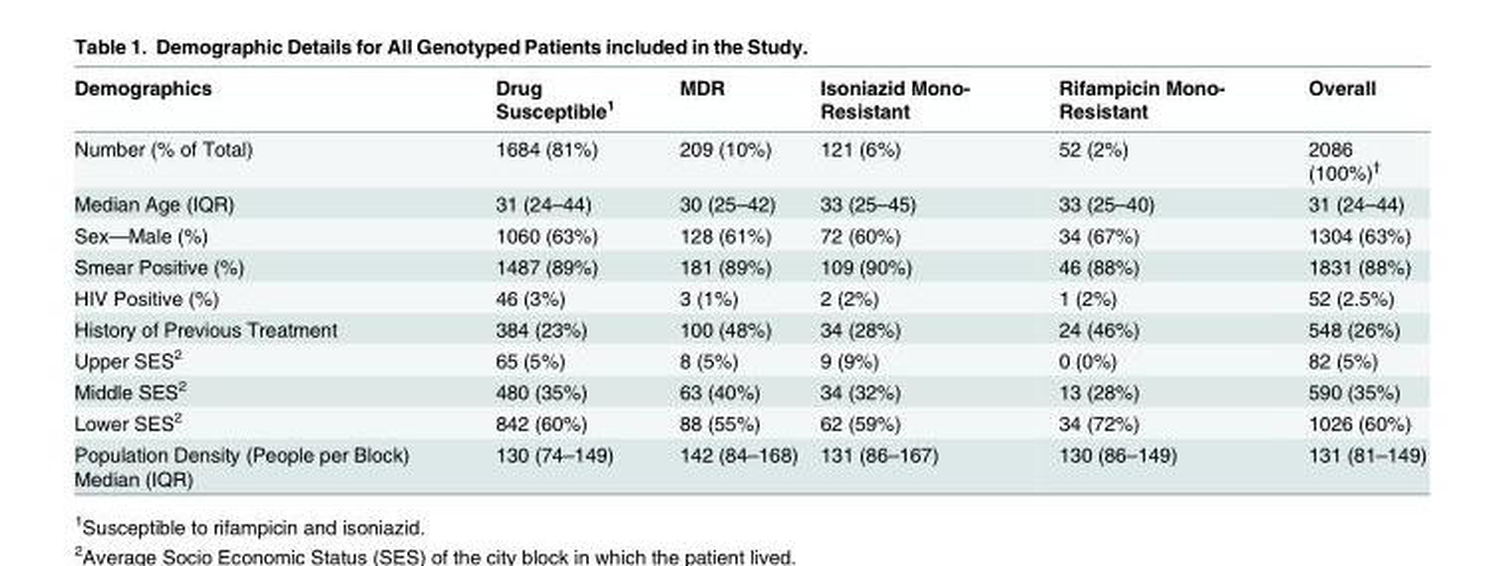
<table><thead><tr><td>Demographics</td><td>Drug Susceptible<sup>1</sup></td><td>MDR</td><td>Isoniazid Mono- Resistant</td><td>Rifampicin Mono- Resistant</td><td>Overall</td></tr></thead><tbody><tr><td>Number (% of Total)</td><td>1684 (81%)</td><td>209 (10%)</td><td>121 (6%)</td><td>52 (2%)</td><td>2086 (100%)<sup>†</sup></td></tr><tr><td>Median Age (IQR)</td><td>31 (24–44)</td><td>30 (25–42)</td><td>33 (25–45)</td><td>33 (25–40)</td><td>31 (24–44)</td></tr><tr><td>Sex—Male (%)</td><td>1060 (63%)</td><td>128 (61%)</td><td>72 (60%)</td><td>34 (67%)</td><td>1304 (63%)</td></tr><tr><td>Smear Positive (%)</td><td>1487 (89%)</td><td>181 (89%)</td><td>109 (90%)</td><td>46 (88%)</td><td>1831 (88%)</td></tr><tr><td>HIV Positive (%)</td><td>46 (3%)</td><td>3 (1%)</td><td>2 (2%)</td><td>1 (2%)</td><td>52 (2.5%)</td></tr><tr><td>History of Previous Treatment</td><td>384 (23%)</td><td>100 (48%)</td><td>34 (28%)</td><td>24 (46%)</td><td>548 (26%)</td></tr><tr><td>Upper SES<sup>2</sup></td><td>65 (5%)</td><td>8 (5%)</td><td>9 (9%)</td><td>0 (0%)</td><td>82 (5%)</td></tr><tr><td>Middle SES<sup>2</sup></td><td>480 (35%)</td><td>63 (40%)</td><td>34 (32%)</td><td>13 (28%)</td><td>590 (35%)</td></tr><tr><td>Lower SES<sup>2</sup></td><td>842 (60%)</td><td>88 (55%)</td><td>62 (59%)</td><td>34 (72%)</td><td>1026 (60%)</td></tr><tr><td>Population Density (People per Block) Median (IQR)</td><td>130 (74–149)</td><td>142 (84–168)</td><td>131 (86–167)</td><td>130 (86–149)</td><td>131 (81–149)</td></tr></tbody></table>